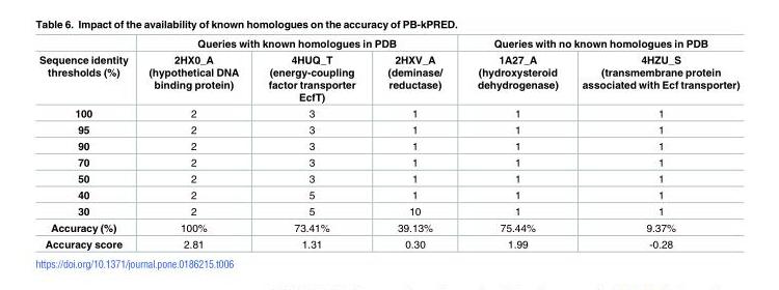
<table><thead><tr><td rowspan="2">Sequence identity thresholds (%)</td><td colspan="3">Queries with known homologues in PDB</td><td colspan="2">Queries with no known homologues in PDB</td></tr><tr><td>2HX0_A (hypothetical DNA binding protein)</td><td>4HUQ_T (energy-coupling factor transporter EcfT)</td><td>2HXV_A (deminase/ reductase)</td><td>1A27_A (hydroxysteroid dehydrogenase)</td><td>4HZU_S (transmembrane protein associated with Ecf transporter)</td></tr></thead><tbody><tr><td>100</td><td>2</td><td>3</td><td>1</td><td>1</td><td>1</td></tr><tr><td>95</td><td>2</td><td>3</td><td>1</td><td>1</td><td>1</td></tr><tr><td>90</td><td>2</td><td>3</td><td>1</td><td>1</td><td>1</td></tr><tr><td>70</td><td>2</td><td>3</td><td>1</td><td>1</td><td>1</td></tr><tr><td>50</td><td>2</td><td>3</td><td>1</td><td>1</td><td>1</td></tr><tr><td>40</td><td>2</td><td>5</td><td>1</td><td>1</td><td>1</td></tr><tr><td>30</td><td>2</td><td>5</td><td>10</td><td>1</td><td>1</td></tr><tr><td>Accuracy (%)</td><td>100%</td><td>73.41%</td><td>39.13%</td><td>75.44%</td><td>9.37%</td></tr><tr><td>Accuracy score</td><td>2.81</td><td>1.31</td><td>0.30</td><td>1.99</td><td>-0.28</td></tr></tbody></table>